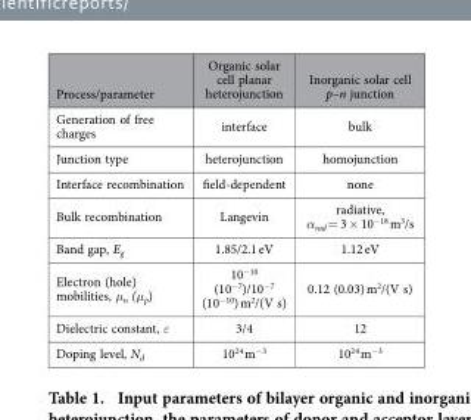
<table><thead><tr><td>Process/parameter</td><td>Organic solar cell planar heterojunction</td><td>Inorganic solar cell p–n junction</td></tr></thead><tbody><tr><td>Generation of free charges</td><td>interface</td><td>bulk</td></tr><tr><td>Junction type</td><td>heterojunction</td><td>homojunction</td></tr><tr><td>Interface recombination</td><td>field-dependent</td><td>none</td></tr><tr><td>Bulk recombination</td><td>Langevin</td><td>radiative, α<sub>rad</sub> = 3 × 10<sup>−18</sup> m<sup>3</sup>/s</td></tr><tr><td>Band gap, E<sub>g</sub></td><td>1.85/2.1 eV</td><td>1.12 eV</td></tr><tr><td>Electron (hole) mobilities, μ<sub>n</sub> (μ<sub>p</sub>)</td><td>10<sup>−10</sup> (10<sup>−7</sup>)/10<sup>−7</sup> (10<sup>−10</sup>) m<sup>2</sup>/(V s)</td><td>0.12 (0.03) m<sup>2</sup>/(V s)</td></tr><tr><td>Dielectric constant, ε</td><td>3/4</td><td>12</td></tr><tr><td>Doping level, N<sub>d</sub></td><td>10<sup>24</sup> m<sup>−3</sup></td><td>10<sup>24</sup> m<sup>−3</sup></td></tr></tbody></table>